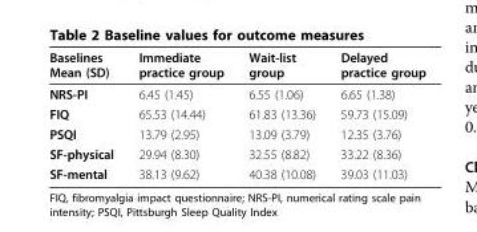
<table><thead><tr><td>Baselines Mean (SD)</td><td>Immediate practice group</td><td>Wait-list group</td><td>Delayed practice group</td></tr></thead><tbody><tr><td>NRS-PI</td><td>6.45 (1.45)</td><td>6.55 (1.06)</td><td>6.65 (1.38)</td></tr><tr><td>FIQ</td><td>65.53 (14.44)</td><td>61.83 (13.36)</td><td>59.73 (15.09)</td></tr><tr><td>PSQI</td><td>13.79 (2.95)</td><td>13.09 (3.79)</td><td>12.35 (3.76)</td></tr><tr><td>SF-physical</td><td>29.94 (8.30)</td><td>32.55 (8.82)</td><td>33.22 (8.36)</td></tr><tr><td>SF-mental</td><td>38.13 (9.62)</td><td>40.38 (10.08)</td><td>39.03 (11.03)</td></tr></tbody></table>